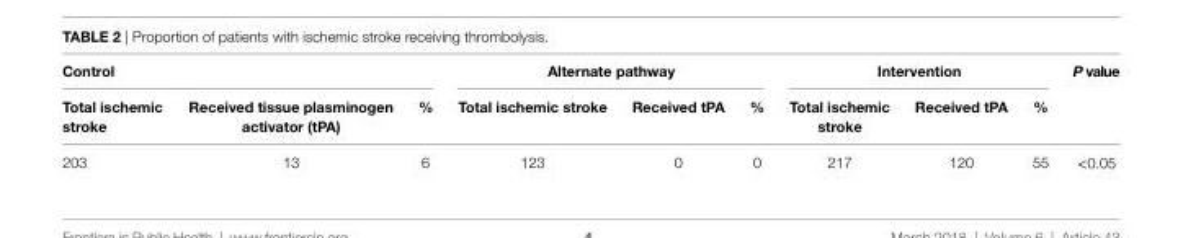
<table><thead><tr><td colspan="3">control</td><td colspan="3">alternate pathway</td><td colspan="3">intervention</td><td rowspan="2">P value</td></tr><tr><td>Total ischemic stroke</td><td>received tissue plasminogen activator (tPa)</td><td>%</td><td>Total ischemic stroke</td><td>received tPa</td><td>%</td><td>Total ischemic stroke</td><td>received tPa</td><td>%</td></tr></thead><tbody><tr><td>203</td><td>13</td><td>6</td><td>123</td><td>0</td><td>0</td><td>217</td><td>120</td><td>55</td><td>&lt;0.05</td></tr></tbody></table>